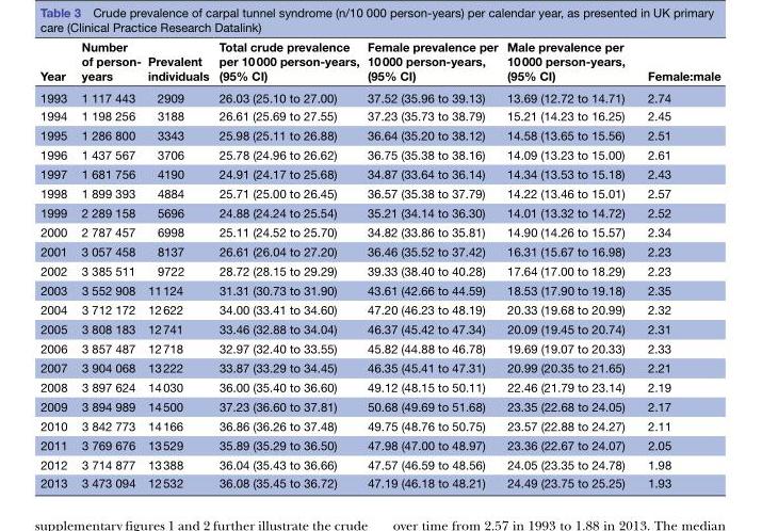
<table><thead><tr><td>Year</td><td>Number of person- years</td><td>Prevalent individuals</td><td>Total crude prevalence per 10 000 person-years, (95% CI)</td><td>Female prevalence per 10 000 person-years, (95% CI)</td><td>Male prevalence per 10 000 person-years, (95% CI)</td><td>Female:male</td></tr></thead><tbody><tr><td>1993</td><td>1 117 443</td><td>2909</td><td>26.03 (25.10 to 27.00)</td><td>37.52 (35.96 to 39.13)</td><td>13.69 (12.72 to 14.71)</td><td>2.74</td></tr><tr><td>1994</td><td>1 198 256</td><td>3188</td><td>26.61 (25.69 to 27.55)</td><td>37.23 (35.73 to 38.79)</td><td>15.21 (14.23 to 16.25)</td><td>2.45</td></tr><tr><td>1995</td><td>1 286 800</td><td>3343</td><td>25.98 (25.11 to 26.88)</td><td>36.64 (35.20 to 38.12)</td><td>14.58 (13.65 to 15.56)</td><td>2.51</td></tr><tr><td>1996</td><td>1 437 567</td><td>3706</td><td>25.78 (24.96 to 26.62)</td><td>36.75 (35.38 to 38.16)</td><td>14.09 (13.23 to 15.00)</td><td>2.61</td></tr><tr><td>1997</td><td>1 681 756</td><td>4190</td><td>24.91 (24.17 to 25.68)</td><td>34.87 (33.64 to 36.14)</td><td>14.34 (13.53 to 15.18)</td><td>2.43</td></tr><tr><td>1998</td><td>1 899 393</td><td>4884</td><td>25.71 (25.00 to 26.45)</td><td>36.57 (35.38 to 37.79)</td><td>14.22 (13.46 to 15.01)</td><td>2.57</td></tr><tr><td>1999</td><td>2 289 158</td><td>5696</td><td>24.88 (24.24 to 25.54)</td><td>35.21 (34.14 to 36.30)</td><td>14.01 (13.32 to 14.72)</td><td>2.52</td></tr><tr><td>2000</td><td>2 787 457</td><td>6998</td><td>25.11 (24.52 to 25.70)</td><td>34.82 (33.86 to 35.81)</td><td>14.90 (14.26 to 15.57)</td><td>2.34</td></tr><tr><td>2001</td><td>3 057 458</td><td>8137</td><td>26.61 (26.04 to 27.20)</td><td>36.46 (35.52 to 37.42)</td><td>16.31 (15.67 to 16.98)</td><td>2.23</td></tr><tr><td>2002</td><td>3 385 511</td><td>9722</td><td>28.72 (28.15 to 29.29)</td><td>39.33 (38.40 to 40.28)</td><td>17.64 (17.00 to 18.29)</td><td>2.23</td></tr><tr><td>2003</td><td>3 552 908</td><td>11 124</td><td>31.31 (30.73 to 31.90)</td><td>43.61 (42.66 to 44.59)</td><td>18.53 (17.90 to 19.18)</td><td>2.35</td></tr><tr><td>2004</td><td>3 712 172</td><td>12 622</td><td>34.00 (33.41 to 34.60)</td><td>47.20 (46.23 to 48.19)</td><td>20.33 (19.68 to 20.99)</td><td>2.32</td></tr><tr><td>2005</td><td>3 808 183</td><td>12 741</td><td>33.46 (32.88 to 34.04)</td><td>46.37 (45.42 to 47.34)</td><td>20.09 (19.45 to 20.74)</td><td>2.31</td></tr><tr><td>2006</td><td>3 857 487</td><td>12 718</td><td>32.97 (32.40 to 33.55)</td><td>45.82 (44.88 to 46.78)</td><td>19.69 (19.07 to 20.33)</td><td>2.33</td></tr><tr><td>2007</td><td>3 904 068</td><td>13 222</td><td>33.87 (33.29 to 34.45)</td><td>46.35 (45.41 to 47.31)</td><td>20.99 (20.35 to 21.65)</td><td>2.21</td></tr><tr><td>2008</td><td>3 897 624</td><td>14 030</td><td>36.00 (35.40 to 36.60)</td><td>49.12 (48.15 to 50.11)</td><td>22.46 (21.79 to 23.14)</td><td>2.19</td></tr><tr><td>2009</td><td>3 894 989</td><td>14 500</td><td>37.23 (36.60 to 37.81)</td><td>50.68 (49.69 to 51.68)</td><td>23.35 (22.68 to 24.05)</td><td>2.17</td></tr><tr><td>2010</td><td>3 842 773</td><td>14 166</td><td>36.86 (36.26 to 37.48)</td><td>49.75 (48.76 to 50.75)</td><td>23.57 (22.88 to 24.27)</td><td>2.11</td></tr><tr><td>2011</td><td>3 769 676</td><td>13 529</td><td>35.89 (35.29 to 36.50)</td><td>47.98 (47.00 to 48.97)</td><td>23.36 (22.67 to 24.07)</td><td>2.05</td></tr><tr><td>2012</td><td>3 714 877</td><td>13 388</td><td>36.04 (35.43 to 36.66)</td><td>47.57 (46.59 to 48.56)</td><td>24.05 (23.35 to 24.78)</td><td>1.98</td></tr><tr><td>2013</td><td>3 473 094</td><td>12 532</td><td>36.08 (35.45 to 36.72)</td><td>47.19 (46.18 to 48.21)</td><td>24.49 (23.75 to 25.25)</td><td>1.93</td></tr></tbody></table>